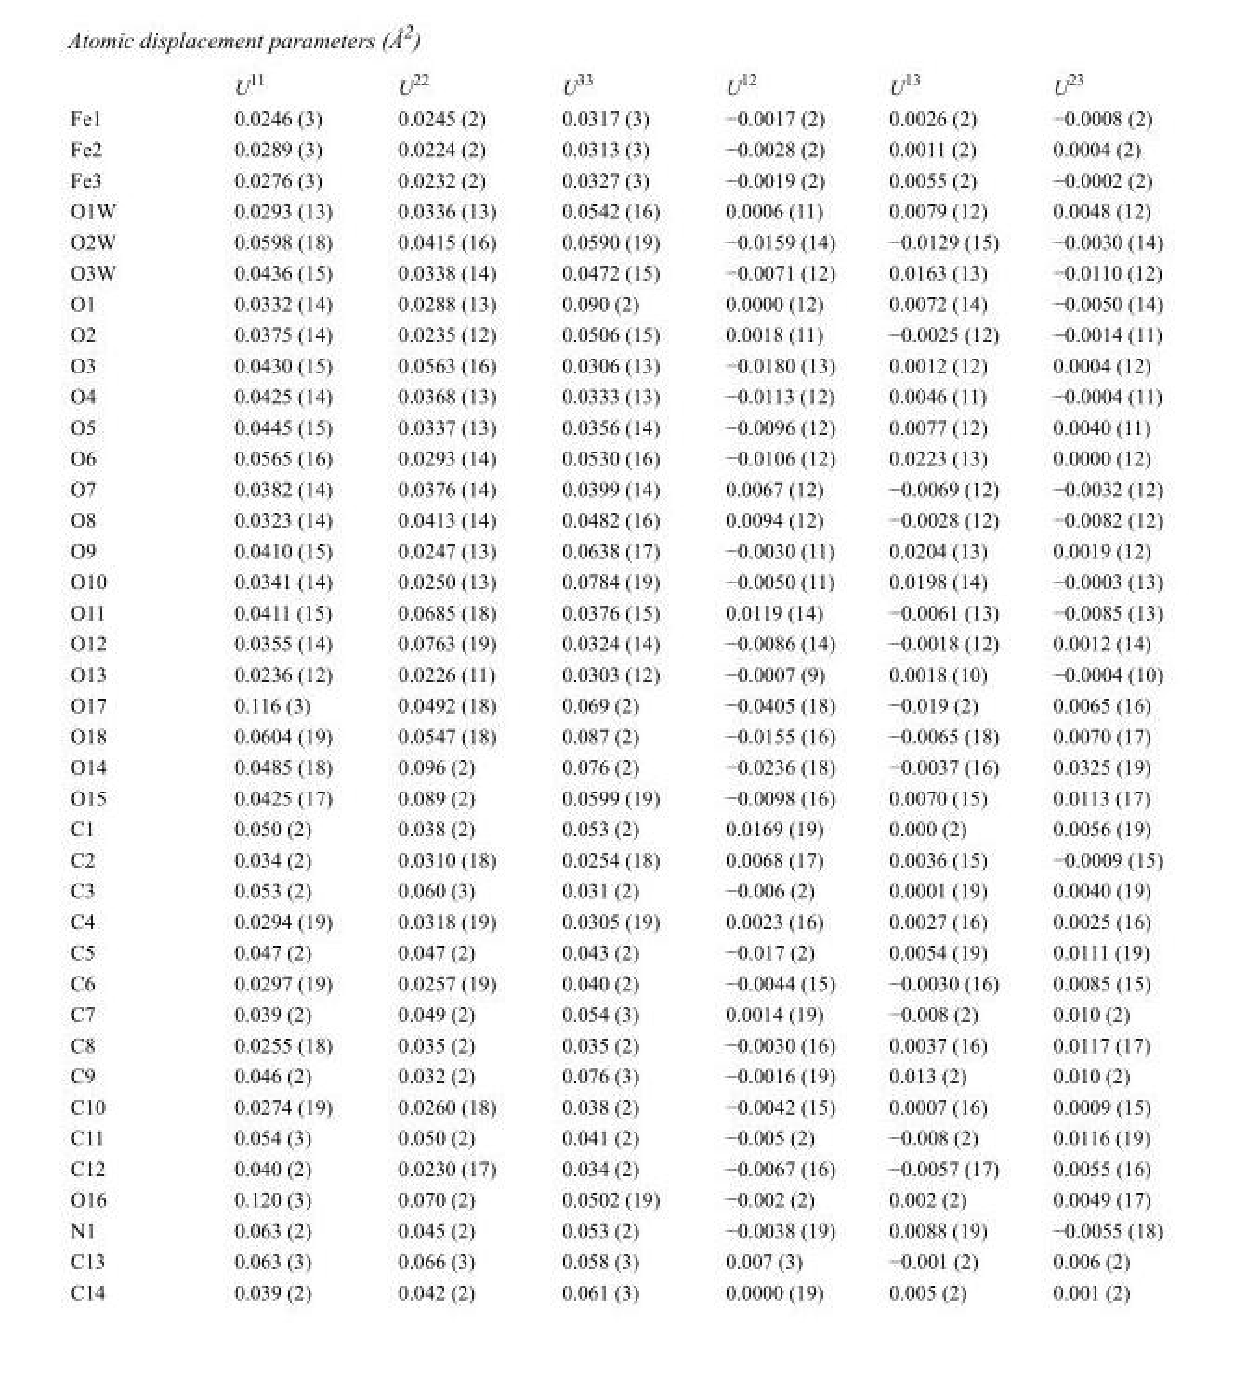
<table><thead><tr><td></td><td>U<sup>11</sup></td><td>U<sup>22</sup></td><td>U<sup>33</sup></td><td>U<sup>12</sup></td><td>U<sup>13</sup></td><td>U<sup>23</sup></td></tr></thead><tbody><tr><td>Fe1</td><td>0.0246 (3)</td><td>0.0245 (2)</td><td>0.0317 (3)</td><td>−0.0017 (2)</td><td>0.0026 (2)</td><td>−0.0008 (2)</td></tr><tr><td>Fe2</td><td>0.0289 (3)</td><td>0.0224 (2)</td><td>0.0313 (3)</td><td>−0.0028 (2)</td><td>0.0011 (2)</td><td>0.0004 (2)</td></tr><tr><td>Fe3</td><td>0.0276 (3)</td><td>0.0232 (2)</td><td>0.0327 (3)</td><td>−0.0019 (2)</td><td>0.0055 (2)</td><td>−0.0002 (2)</td></tr><tr><td>O1W</td><td>0.0293 (13)</td><td>0.0336 (13)</td><td>0.0542 (16)</td><td>0.0006 (11)</td><td>0.0079 (12)</td><td>0.0048 (12)</td></tr><tr><td>O2W</td><td>0.0598 (18)</td><td>0.0415 (16)</td><td>0.0590 (19)</td><td>−0.0159 (14)</td><td>−0.0129 (15)</td><td>−0.0030 (14)</td></tr><tr><td>O3W</td><td>0.0436 (15)</td><td>0.0338 (14)</td><td>0.0472 (15)</td><td>−0.0071 (12)</td><td>0.0163 (13)</td><td>−0.0110 (12)</td></tr><tr><td>O1</td><td>0.0332 (14)</td><td>0.0288 (13)</td><td>0.090 (2)</td><td>0.0000 (12)</td><td>0.0072 (14)</td><td>−0.0050 (14)</td></tr><tr><td>O2</td><td>0.0375 (14)</td><td>0.0235 (12)</td><td>0.0506 (15)</td><td>0.0018 (11)</td><td>−0.0025 (12)</td><td>−0.0014 (11)</td></tr><tr><td>O3</td><td>0.0430 (15)</td><td>0.0563 (16)</td><td>0.0306 (13)</td><td>−0.0180 (13)</td><td>0.0012 (12)</td><td>0.0004 (12)</td></tr><tr><td>O4</td><td>0.0425 (14)</td><td>0.0368 (13)</td><td>0.0333 (13)</td><td>−0.0113 (12)</td><td>0.0046 (11)</td><td>−0.0004 (11)</td></tr><tr><td>O5</td><td>0.0445 (15)</td><td>0.0337 (13)</td><td>0.0356 (14)</td><td>−0.0096 (12)</td><td>0.0077 (12)</td><td>0.0040 (11)</td></tr><tr><td>O6</td><td>0.0565 (16)</td><td>0.0293 (14)</td><td>0.0530 (16)</td><td>−0.0106 (12)</td><td>0.0223 (13)</td><td>0.0000 (12)</td></tr><tr><td>O7</td><td>0.0382 (14)</td><td>0.0376 (14)</td><td>0.0399 (14)</td><td>0.0067 (12)</td><td>−0.0069 (12)</td><td>−0.0032 (12)</td></tr><tr><td>O8</td><td>0.0323 (14)</td><td>0.0413 (14)</td><td>0.0482 (16)</td><td>0.0094 (12)</td><td>−0.0028 (12)</td><td>−0.0082 (12)</td></tr><tr><td>O9</td><td>0.0410 (15)</td><td>0.0247 (13)</td><td>0.0638 (17)</td><td>−0.0030 (11)</td><td>0.0204 (13)</td><td>0.0019 (12)</td></tr><tr><td>O10</td><td>0.0341 (14)</td><td>0.0250 (13)</td><td>0.0784 (19)</td><td>−0.0050 (11)</td><td>0.0198 (14)</td><td>−0.0003 (13)</td></tr><tr><td>O11</td><td>0.0411 (15)</td><td>0.0685 (18)</td><td>0.0376 (15)</td><td>0.0119 (14)</td><td>−0.0061 (13)</td><td>−0.0085 (13)</td></tr><tr><td>O12</td><td>0.0355 (14)</td><td>0.0763 (19)</td><td>0.0324 (14)</td><td>−0.0086 (14)</td><td>−0.0018 (12)</td><td>0.0012 (14)</td></tr><tr><td>O13</td><td>0.0236 (12)</td><td>0.0226 (11)</td><td>0.0303 (12)</td><td>−0.0007 (9)</td><td>0.0018 (10)</td><td>−0.0004 (10)</td></tr><tr><td>O17</td><td>0.116 (3)</td><td>0.0492 (18)</td><td>0.069 (2)</td><td>−0.0405 (18)</td><td>−0.019 (2)</td><td>0.0065 (16)</td></tr><tr><td>O18</td><td>0.0604 (19)</td><td>0.0547 (18)</td><td>0.087 (2)</td><td>−0.0155 (16)</td><td>−0.0065 (18)</td><td>0.0070 (17)</td></tr><tr><td>O14</td><td>0.0485 (18)</td><td>0.096 (2)</td><td>0.076 (2)</td><td>−0.0236 (18)</td><td>−0.0037 (16)</td><td>0.0325 (19)</td></tr><tr><td>O15</td><td>0.0425 (17)</td><td>0.089 (2)</td><td>0.0599 (19)</td><td>−0.0098 (16)</td><td>0.0070 (15)</td><td>0.0113 (17)</td></tr><tr><td>C1</td><td>0.050 (2)</td><td>0.038 (2)</td><td>0.053 (2)</td><td>0.0169 (19)</td><td>0.000 (2)</td><td>0.0056 (19)</td></tr><tr><td>C2</td><td>0.034 (2)</td><td>0.0310 (18)</td><td>0.0254 (18)</td><td>0.0068 (17)</td><td>0.0036 (15)</td><td>−0.0009 (15)</td></tr><tr><td>C3</td><td>0.053 (2)</td><td>0.060 (3)</td><td>0.031 (2)</td><td>−0.006 (2)</td><td>0.0001 (19)</td><td>0.0040 (19)</td></tr><tr><td>C4</td><td>0.0294 (19)</td><td>0.0318 (19)</td><td>0.0305 (19)</td><td>0.0023 (16)</td><td>0.0027 (16)</td><td>0.0025 (16)</td></tr><tr><td>C5</td><td>0.047 (2)</td><td>0.047 (2)</td><td>0.043 (2)</td><td>−0.017 (2)</td><td>0.0054 (19)</td><td>0.0111 (19)</td></tr><tr><td>C6</td><td>0.0297 (19)</td><td>0.0257 (19)</td><td>0.040 (2)</td><td>−0.0044 (15)</td><td>−0.0030 (16)</td><td>0.0085 (15)</td></tr><tr><td>C7</td><td>0.039 (2)</td><td>0.049 (2)</td><td>0.054 (3)</td><td>0.0014 (19)</td><td>−0.008 (2)</td><td>0.010 (2)</td></tr><tr><td>C8</td><td>0.0255 (18)</td><td>0.035 (2)</td><td>0.035 (2)</td><td>−0.0030 (16)</td><td>0.0037 (16)</td><td>0.0117 (17)</td></tr><tr><td>C9</td><td>0.046 (2)</td><td>0.032 (2)</td><td>0.076 (3)</td><td>−0.0016 (19)</td><td>0.013 (2)</td><td>0.010 (2)</td></tr><tr><td>C10</td><td>0.0274 (19)</td><td>0.0260 (18)</td><td>0.038 (2)</td><td>−0.0042 (15)</td><td>0.0007 (16)</td><td>0.0009 (15)</td></tr><tr><td>C11</td><td>0.054 (3)</td><td>0.050 (2)</td><td>0.041 (2)</td><td>−0.005 (2)</td><td>−0.008 (2)</td><td>0.0116 (19)</td></tr><tr><td>C12</td><td>0.040 (2)</td><td>0.0230 (17)</td><td>0.034 (2)</td><td>−0.0067 (16)</td><td>−0.0057 (17)</td><td>0.0055 (16)</td></tr><tr><td>O16</td><td>0.120 (3)</td><td>0.070 (2)</td><td>0.0502 (19)</td><td>−0.002 (2)</td><td>0.002 (2)</td><td>0.0049 (17)</td></tr><tr><td>N1</td><td>0.063 (2)</td><td>0.045 (2)</td><td>0.053 (2)</td><td>−0.0038 (19)</td><td>0.0088 (19)</td><td>−0.0055 (18)</td></tr><tr><td>C13</td><td>0.063 (3)</td><td>0.066 (3)</td><td>0.058 (3)</td><td>0.007 (3)</td><td>−0.001 (2)</td><td>0.006 (2)</td></tr><tr><td>C14</td><td>0.039 (2)</td><td>0.042 (2)</td><td>0.061 (3)</td><td>0.0000 (19)</td><td>0.005 (2)</td><td>0.001 (2)</td></tr></tbody></table>